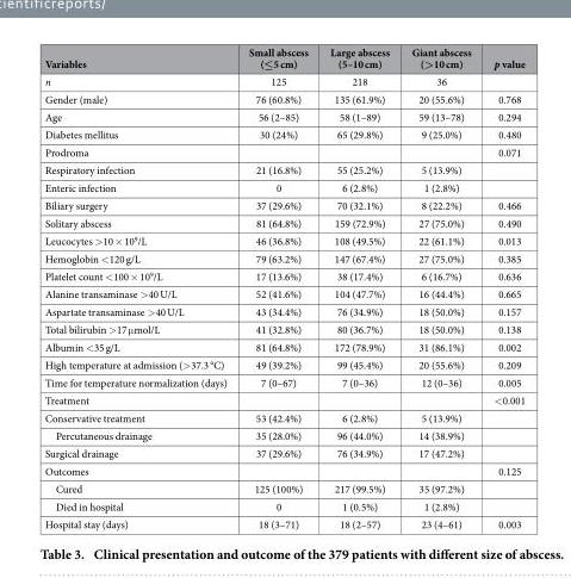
<table><thead><tr><td>Variables</td><td>Small abscess (≤5 cm)</td><td>Large abscess (5–10 cm)</td><td>Giant abscess (&gt;10 cm)</td><td>p value</td></tr></thead><tbody><tr><td>n</td><td>125</td><td>218</td><td>36</td><td></td></tr><tr><td>Gender (male)</td><td>76 (60.8%)</td><td>135 (61.9%)</td><td>20 (55.6%)</td><td>0.768</td></tr><tr><td>Age</td><td>56 (2–85)</td><td>58 (1–89)</td><td>59 (13–78)</td><td>0.294</td></tr><tr><td>Diabetes mellitus</td><td>30 (24%)</td><td>65 (29.8%)</td><td>9 (25.0%)</td><td>0.480</td></tr><tr><td>Prodroma</td><td></td><td></td><td></td><td>0.071</td></tr><tr><td>Respiratory infection</td><td>21 (16.8%)</td><td>55 (25.2%)</td><td>5 (13.9%)</td><td></td></tr><tr><td>Enteric infection</td><td>0</td><td>6 (2.8%)</td><td>1 (2.8%)</td><td></td></tr><tr><td>Biliary surgery</td><td>37 (29.6%)</td><td>70 (32.1%)</td><td>8 (22.2%)</td><td>0.466</td></tr><tr><td>Solitary abscess</td><td>81 (64.8%)</td><td>159 (72.9%)</td><td>27 (75.0%)</td><td>0.490</td></tr><tr><td>Leucocytes &gt; 10 × 10<sup>9</sup>/L</td><td>46 (36.8%)</td><td>108 (49.5%)</td><td>22 (61.1%)</td><td>0.013</td></tr><tr><td>Hemoglobin &lt; 120 g/L</td><td>79 (63.2%)</td><td>147 (67.4%)</td><td>27 (75.0%)</td><td>0.385</td></tr><tr><td>Platelet count &lt; 100 × 10<sup>9</sup>/L</td><td>17 (13.6%)</td><td>38 (17.4%)</td><td>6 (16.7%)</td><td>0.636</td></tr><tr><td>Alanine transaminase &gt; 40 U/L</td><td>52 (41.6%)</td><td>104 (47.7%)</td><td>16 (44.4%)</td><td>0.665</td></tr><tr><td>Aspartate transaminase &gt; 40 U/L</td><td>43 (34.4%)</td><td>76 (34.9%)</td><td>18 (50.0%)</td><td>0.157</td></tr><tr><td>Total bilirubin &gt; 17 μ mol/L</td><td>41 (32.8%)</td><td>80 (36.7%)</td><td>18 (50.0%)</td><td>0.138</td></tr><tr><td>Albumin &lt; 35 g/L</td><td>81 (64.8%)</td><td>172 (78.9%)</td><td>31 (86.1%)</td><td>0.002</td></tr><tr><td>High temperature at admission (&gt; 37.3 °C)</td><td>49 (39.2%)</td><td>99 (45.4%)</td><td>20 (55.6%)</td><td>0.209</td></tr><tr><td>Time for temperature normalization (days)</td><td>7 (0–67)</td><td>7 (0–36)</td><td>12 (0–36)</td><td>0.005</td></tr><tr><td>Treatment</td><td></td><td></td><td></td><td>&lt; 0.001</td></tr><tr><td>Conservative treatment</td><td>53 (42.4%)</td><td>6 (2.8%)</td><td>5 (13.9%)</td><td></td></tr><tr><td>Percutaneous drainage</td><td>35 (28.0%)</td><td>96 (44.0%)</td><td>14 (38.9%)</td><td></td></tr><tr><td>Surgical drainage</td><td>37 (29.6%)</td><td>76 (34.9%)</td><td>17 (47.2%)</td><td></td></tr><tr><td>Outcomes</td><td></td><td></td><td></td><td>0.125</td></tr><tr><td>Cured</td><td>125 (100%)</td><td>217 (99.5%)</td><td>35 (97.2%)</td><td></td></tr><tr><td>Died in hospital</td><td>0</td><td>1 (0.5%)</td><td>1 (2.8%)</td><td></td></tr><tr><td>Hospital stay (days)</td><td>18 (3–71)</td><td>18 (2–57)</td><td>23 (4–61)</td><td>0.003</td></tr></tbody></table>